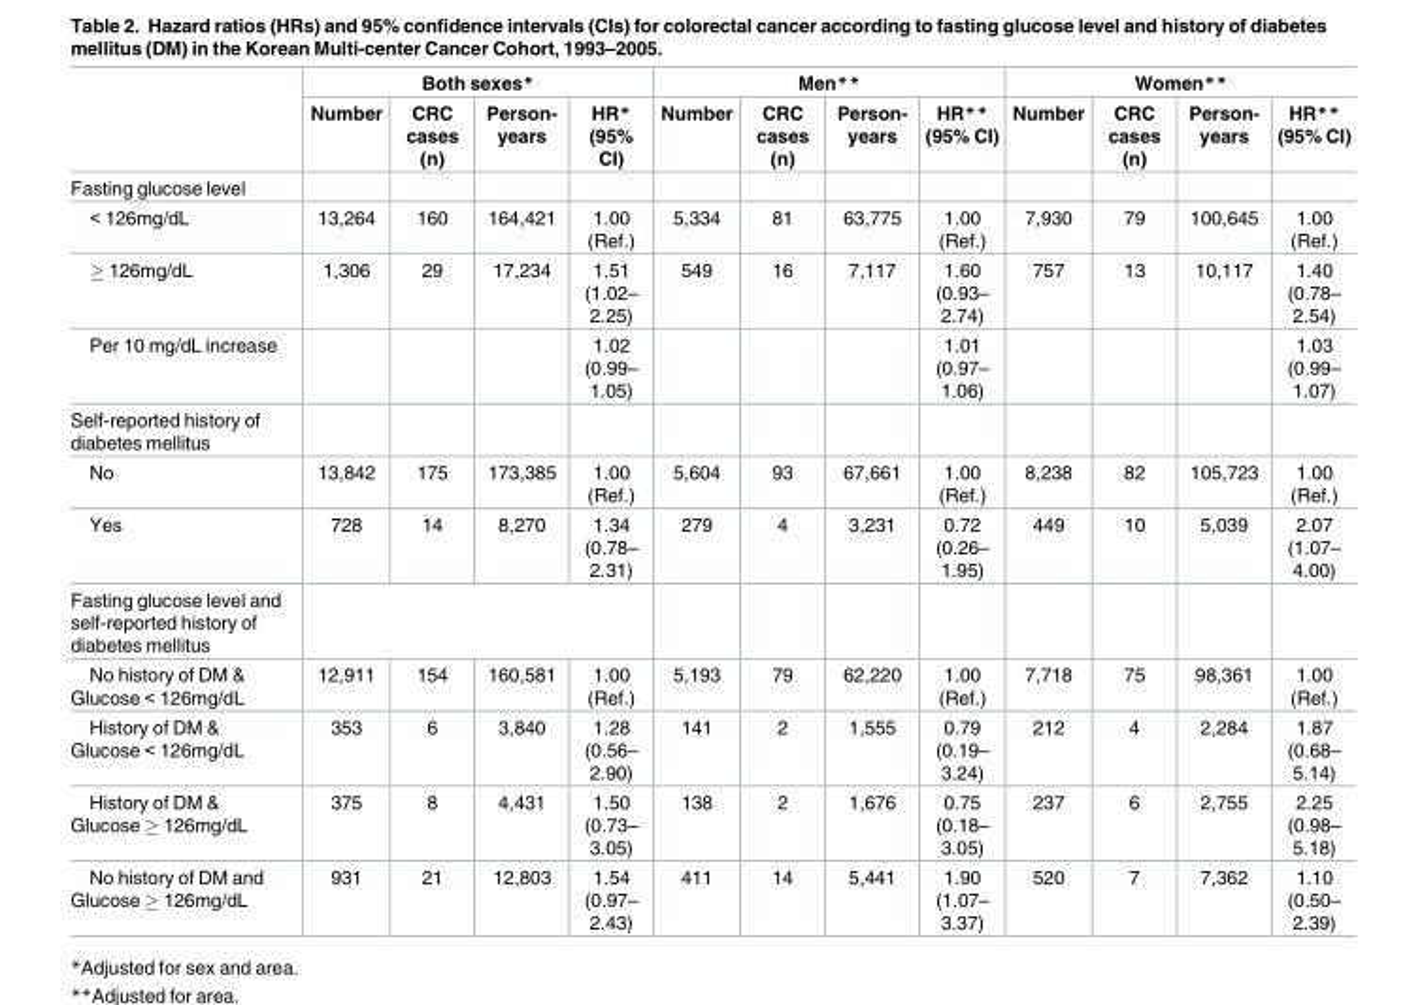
<table><thead><tr><td rowspan="2"></td><td colspan="4">Both sexes*</td><td colspan="4">Men**</td><td colspan="4">Women**</td></tr><tr><td>Number</td><td>CRC cases (n)</td><td>Person- years</td><td>HR* (95% CI)</td><td>Number</td><td>CRC cases (n)</td><td>Person- years</td><td>HR** (95% CI)</td><td>Number</td><td>CRC cases (n)</td><td>Person- years</td><td>HR** (95% CI)</td></tr></thead><tbody><tr><td colspan="13">Fasting glucose level</td></tr><tr><td>&lt; 126mg/dL</td><td>13,264</td><td>160</td><td>164,421</td><td>1.00 (Ref.)</td><td>5,334</td><td>81</td><td>63,775</td><td>1.00 (Ref.)</td><td>7,930</td><td>79</td><td>100,645</td><td>1.00 (Ref.)</td></tr><tr><td>≥ 126mg/dL</td><td>1,306</td><td>29</td><td>17,234</td><td>1.51 (1.02– 2.25)</td><td>549</td><td>16</td><td>7,117</td><td>1.60 (0.93– 2.74)</td><td>757</td><td>13</td><td>10,117</td><td>1.40 (0.78– 2.54)</td></tr><tr><td>Per 10 mg/dL increase</td><td></td><td></td><td></td><td>1.02 (0.99– 1.05)</td><td></td><td></td><td></td><td>1.01 (0.97– 1.06)</td><td></td><td></td><td></td><td>1.03 (0.99– 1.07)</td></tr><tr><td colspan="13">Self-reported history of diabetes mellitus</td></tr><tr><td>No</td><td>13,842</td><td>175</td><td>173,385</td><td>1.00 (Ref.)</td><td>5,604</td><td>93</td><td>67,661</td><td>1.00 (Ref.)</td><td>8,238</td><td>82</td><td>105,723</td><td>1.00 (Ref.)</td></tr><tr><td>Yes</td><td>728</td><td>14</td><td>8,270</td><td>1.34 (0.78– 2.31)</td><td>279</td><td>4</td><td>3,231</td><td>0.72 (0.26– 1.95)</td><td>449</td><td>10</td><td>5,039</td><td>2.07 (1.07– 4.00)</td></tr><tr><td colspan="13">Fasting glucose level and self-reported history of diabetes mellitus</td></tr><tr><td>No history of DM &amp; Glucose &lt; 126mg/dL</td><td>12,911</td><td>154</td><td>160,581</td><td>1.00 (Ref.)</td><td>5,193</td><td>79</td><td>62,220</td><td>1.00 (Ref.)</td><td>7,718</td><td>75</td><td>98,361</td><td>1.00 (Ref.)</td></tr><tr><td>History of DM &amp; Glucose &lt; 126mg/dL</td><td>353</td><td>6</td><td>3,840</td><td>1.28 (0.56– 2.90)</td><td>141</td><td>2</td><td>1,555</td><td>0.79 (0.19– 3.24)</td><td>212</td><td>4</td><td>2,284</td><td>1.87 (0.68– 5.14)</td></tr><tr><td>History of DM &amp; Glucose ≥ 126mg/dL</td><td>375</td><td>8</td><td>4,431</td><td>1.50 (0.73– 3.05)</td><td>138</td><td>2</td><td>1,676</td><td>0.75 (0.18– 3.05)</td><td>237</td><td>6</td><td>2,755</td><td>2.25 (0.98– 5.18)</td></tr><tr><td>No history of DM and Glucose ≥ 126mg/dL</td><td>931</td><td>21</td><td>12,803</td><td>1.54 (0.97– 2.43)</td><td>411</td><td>14</td><td>5,441</td><td>1.90 (1.07– 3.37)</td><td>520</td><td>7</td><td>7,362</td><td>1.10 (0.50– 2.39)</td></tr></tbody></table>